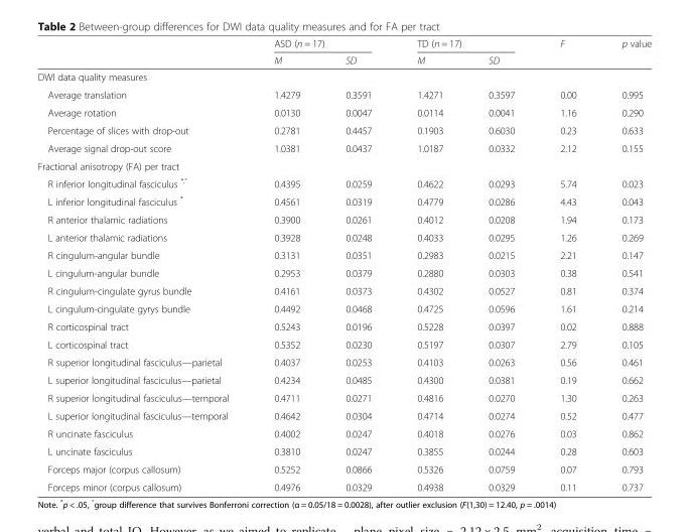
<table><thead><tr><td rowspan="2"></td><td colspan="2">ASD (n = 17)</td><td colspan="2">TD (n = 17)</td><td rowspan="2">F</td><td rowspan="2">p value</td></tr><tr><td>M</td><td>SD</td><td>M</td><td>SD</td></tr></thead><tbody><tr><td colspan="7">DWI data quality measures</td></tr><tr><td>Average translation</td><td>1.4279</td><td>0.3591</td><td>1.4271</td><td>0.3597</td><td>0.00</td><td>0.995</td></tr><tr><td>Average rotation</td><td>0.0130</td><td>0.0047</td><td>0.0114</td><td>0.0041</td><td>1.16</td><td>0.290</td></tr><tr><td>Percentage of slices with drop-out</td><td>0.2781</td><td>0.4457</td><td>0.1903</td><td>0.6030</td><td>0.23</td><td>0.633</td></tr><tr><td>Average signal drop-out score</td><td>1.0381</td><td>0.0437</td><td>1.0187</td><td>0.0332</td><td>2.12</td><td>0.155</td></tr><tr><td colspan="7">Fractional anisotropy (FA) per tract</td></tr><tr><td>R inferior longitudinal fasciculus <sup>*,°</sup></td><td>0.4395</td><td>0.0259</td><td>0.4622</td><td>0.0293</td><td>5.74</td><td>0.023</td></tr><tr><td>L inferior longitudinal fasciculus *</td><td>0.4561</td><td>0.0319</td><td>0.4779</td><td>0.0286</td><td>4.43</td><td>0.043</td></tr><tr><td>R anterior thalamic radiations</td><td>0.3900</td><td>0.0261</td><td>0.4012</td><td>0.0208</td><td>1.94</td><td>0.173</td></tr><tr><td>L anterior thalamic radiations</td><td>0.3928</td><td>0.0248</td><td>0.4033</td><td>0.0295</td><td>1.26</td><td>0.269</td></tr><tr><td>R cingulum-angular bundle</td><td>0.3131</td><td>0.0351</td><td>0.2983</td><td>0.0215</td><td>2.21</td><td>0.147</td></tr><tr><td>L cingulum-angular bundle</td><td>0.2953</td><td>0.0379</td><td>0.2880</td><td>0.0303</td><td>0.38</td><td>0.541</td></tr><tr><td>R cingulum-cingulate gyrus bundle</td><td>0.4161</td><td>0.0373</td><td>0.4302</td><td>0.0527</td><td>0.81</td><td>0.374</td></tr><tr><td>L cingulum-cingulate gyrys bundle</td><td>0.4492</td><td>0.0468</td><td>0.4725</td><td>0.0596</td><td>1.61</td><td>0.214</td></tr><tr><td>R corticospinal tract</td><td>0.5243</td><td>0.0196</td><td>0.5228</td><td>0.0397</td><td>0.02</td><td>0.888</td></tr><tr><td>L corticospinal tract</td><td>0.5352</td><td>0.0230</td><td>0.5197</td><td>0.0307</td><td>2.79</td><td>0.105</td></tr><tr><td>R superior longitudinal fasciculus—parietal</td><td>0.4037</td><td>0.0253</td><td>0.4103</td><td>0.0263</td><td>0.56</td><td>0.461</td></tr><tr><td>L superior longitudinal fasciculus—parietal</td><td>0.4234</td><td>0.0485</td><td>0.4300</td><td>0.0381</td><td>0.19</td><td>0.662</td></tr><tr><td>R superior longitudinal fasciculus—temporal</td><td>0.4711</td><td>0.0271</td><td>0.4816</td><td>0.0270</td><td>1.30</td><td>0.263</td></tr><tr><td>L superior longitudinal fasciculus—temporal</td><td>0.4642</td><td>0.0304</td><td>0.4714</td><td>0.0274</td><td>0.52</td><td>0.477</td></tr><tr><td>R uncinate fasciculus</td><td>0.4002</td><td>0.0247</td><td>0.4018</td><td>0.0276</td><td>0.03</td><td>0.862</td></tr><tr><td>L uncinate fasciculus</td><td>0.3810</td><td>0.0247</td><td>0.3855</td><td>0.0244</td><td>0.28</td><td>0.603</td></tr><tr><td>Forceps major (corpus callosum)</td><td>0.5252</td><td>0.0866</td><td>0.5326</td><td>0.0759</td><td>0.07</td><td>0.793</td></tr><tr><td>Forceps minor (corpus callosum)</td><td>0.4976</td><td>0.0329</td><td>0.4938</td><td>0.0329</td><td>0.11</td><td>0.737</td></tr></tbody></table>